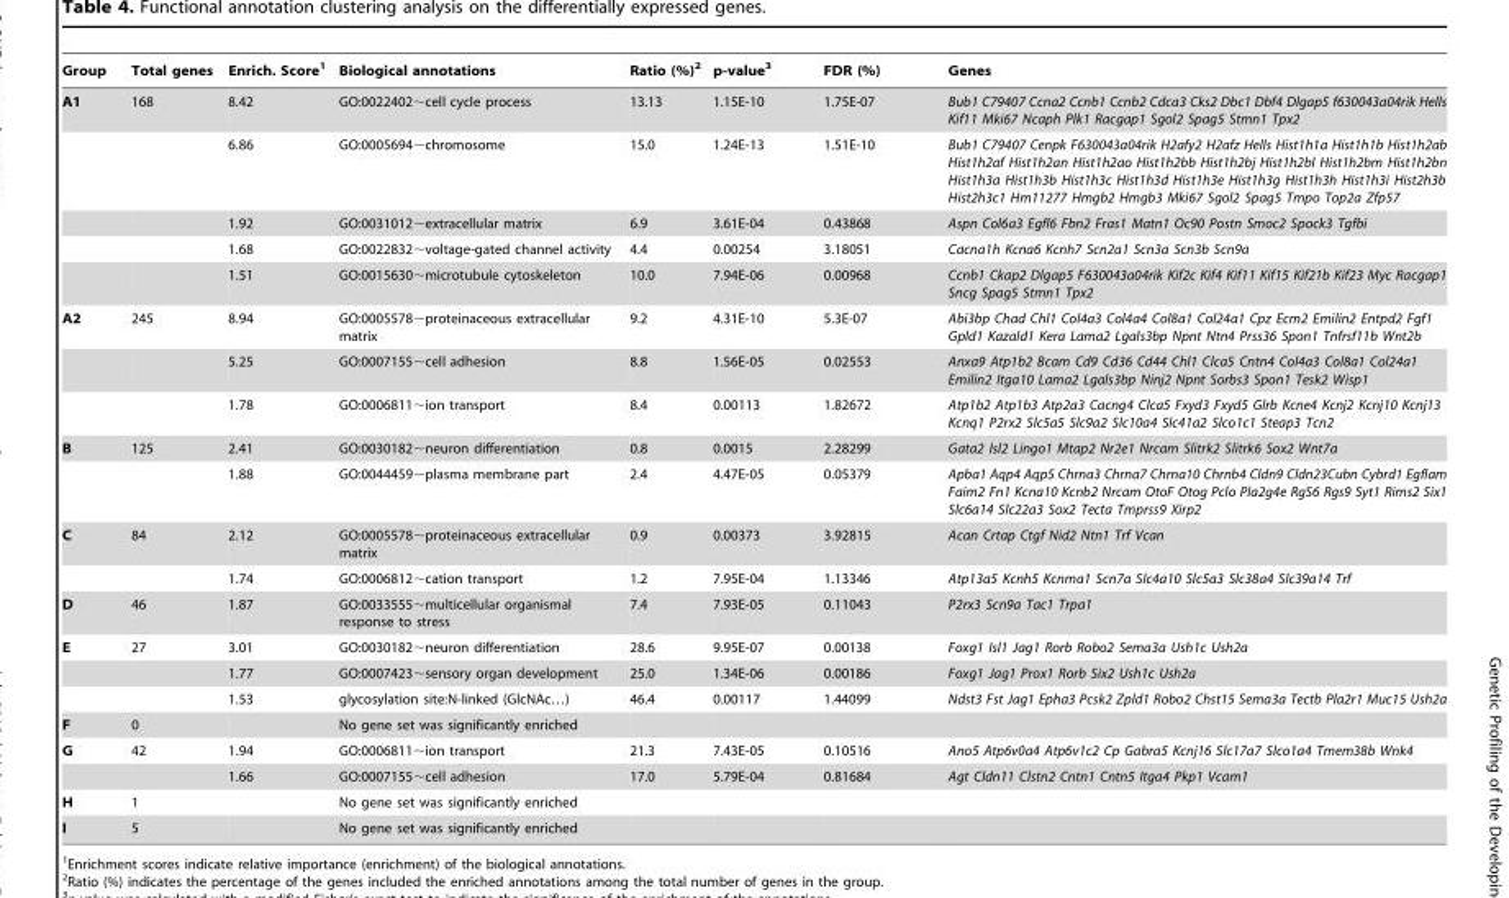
<table><thead><tr><td>Group</td><td>Total genes</td><td>Enrich. Score<sup>1</sup></td><td>Biological annotations</td><td>Ratio (%)<sup>2</sup></td><td>p-value<sup>3</sup></td><td>FDR (%)</td><td>Genes</td></tr></thead><tbody><tr><td rowspan="5">A1</td><td>168</td><td>8.42</td><td>GO:0022402∼cell cycle process</td><td>13.13</td><td>1.15E-10</td><td>1.75E-07</td><td>Bub1 C79407 Ccna2 Ccnb1 Ccnb2 Cdca3 Cks2 Dbc1 Dbf4 Dlgap5 f630043a04rik Hells Kif11 Mki67 Ncaph Plk1 Racgap1 Sgol2 Spag5 Stmn1 Tpx2</td></tr><tr><td></td><td>6.86</td><td>GO:0005694∼chromosome</td><td>15.0</td><td>1.24E-13</td><td>1.51E-10</td><td>Bub1 C79407 Cenpk F630043a04rik H2afy2 H2afz Hells Hist1h1a Hist1h1b Hist1h2ab Hist1h2af Hist1h2an Hist1h2ao Hist1h2bb Hist1h2bj Hist1h2bl Hist1h2bm Hist1h2bn Hist1h3a Hist1h3b Hist1h3c Hist1h3d Hist1h3e Hist1h3g Hist1h3h Hist1h3i Hist2h3b Hist2h3c1 Hm11277 Hmgb2 Hmgb3 Mki67 Sgol2 Spag5 Tmpo Top2a Zfp57</td></tr><tr><td></td><td>1.92</td><td>GO:0031012∼extracellular matrix</td><td>6.9</td><td>3.61E-04</td><td>0.43868</td><td>Aspn Col6a3 Egfl6 Fbn2 Fras1 Matn1 Oc90 Postn Smoc2 Spock3 Tgfbi</td></tr><tr><td></td><td>1.68</td><td>GO:0022832∼voltage-gated channel activity</td><td>4.4</td><td>0.00254</td><td>3.18051</td><td>Cacna1h Kcna6 Kcnh7 Scn2a1 Scn3a Scn3b Scn9a</td></tr><tr><td></td><td>1.51</td><td>GO:0015630∼microtubule cytoskeleton</td><td>10.0</td><td>7.94E-06</td><td>0.00968</td><td>Ccnb1 Ckap2 Dlgap5 F630043a04rik Kif2c Kif4 Kif11 Kif15 Kif21b Kif23 Myc Racgap1 Sncg Spag5 Stmn1 Tpx2</td></tr><tr><td rowspan="3">A2</td><td>245</td><td>8.94</td><td>GO:0005578∼proteinaceous extracellular matrix</td><td>9.2</td><td>4.31E-10</td><td>5.3E-07</td><td>Abi3bp Chad Chl1 Col4a3 Col4a4 Col8a1 Col24a1 Cpz Ecm2 Emilin2 Entpd2 Fgf1 Gpld1 Kazald1 Kera Lama2 Lgals3bp Npnt Ntn4 Prss36 Spon1 Tnfrsf11b Wnt2b</td></tr><tr><td></td><td>5.25</td><td>GO:0007155∼cell adhesion</td><td>8.8</td><td>1.56E-05</td><td>0.02553</td><td>Anxa9 Atp1b2 Bcam Cd9 Cd36 Cd44 Chl1 Clca5 Cntn4 Col4a3 Col8a1 Col24a1 Emilin2 Itga10 Lama2 Lgals3bp Ninj2 Npnt Sorbs3 Spon1 Tesk2 Wisp1</td></tr><tr><td></td><td>1.78</td><td>GO:0006811∼ion transport</td><td>8.4</td><td>0.00113</td><td>1.82672</td><td>Atp1b2 Atp1b3 Atp2a3 Cacng4 Clca5 Fxyd3 Fxyd5 Glrb Kcne4 Kcnj2 Kcnj10 Kcnj13 Kcnq1 P2rx2 Slc5a5 Slc9a2 Slc10a4 Slc41a2 Slco1c1 Steap3 Tcn2</td></tr><tr><td rowspan="2">B</td><td>125</td><td>2.41</td><td>GO:0030182∼neuron differentiation</td><td>0.8</td><td>0.0015</td><td>2.28299</td><td>Gata2 Isl2 Lingo1 Mtap2 Nr2e1 Nrcam Slitrk2 Slitrk6 Sox2 Wnt7a</td></tr><tr><td></td><td>1.88</td><td>GO:0044459∼plasma membrane part</td><td>2.4</td><td>4.47E-05</td><td>0.05379</td><td>Apba1 Aqp4 Aqp5 Chrna3 Chrna7 Chrna10 Chrnb4 Cldn9 Cldn23Cubn Cybrd1 Egflam Faim2 Fn1 Kcna10 Kcnb2 Nrcam OtoF Otog Pclo Pla2g4e RgS6 Rgs9 Syt1 Rims2 Six1 Slc6a14 Slc22a3 Sox2 Tecta Tmprss9 Xirp2</td></tr><tr><td rowspan="2">C</td><td>84</td><td>2.12</td><td>GO:0005578∼proteinaceous extracellular matrix</td><td>0.9</td><td>0.00373</td><td>3.92815</td><td>Acan Crtap Ctgf Nid2 Ntn1 Trf Vcan</td></tr><tr><td></td><td>1.74</td><td>GO:0006812∼cation transport</td><td>1.2</td><td>7.95E-04</td><td>1.13346</td><td>Atp13a5 Kcnh5 Kcnma1 Scn7a Slc4a10 Slc5a3 Slc38a4 Slc39a14 Trf</td></tr><tr><td>D</td><td>46</td><td>1.87</td><td>GO:0033555∼multicellular organismal response to stress</td><td>7.4</td><td>7.93E-05</td><td>0.11043</td><td>P2rx3 Scn9a Tac1 Trpa1</td></tr><tr><td rowspan="3">E</td><td>27</td><td>3.01</td><td>GO:0030182∼neuron differentiation</td><td>28.6</td><td>9.95E-07</td><td>0.00138</td><td>Foxg1 Isl1 Jag1 Rorb Robo2 Sema3a Ush1c Ush2a</td></tr><tr><td></td><td>1.77</td><td>GO:0007423∼sensory organ development</td><td>25.0</td><td>1.34E-06</td><td>0.00186</td><td>Foxg1 Jag1 Prox1 Rorb Six2 Ush1c Ush2a</td></tr><tr><td></td><td>1.53</td><td>glycosylation site:N-linked (GlcNAc…)</td><td>46.4</td><td>0.00117</td><td>1.44099</td><td>Ndst3 Fst Jag1 Epha3 Pcsk2 Zpld1 Robo2 Chst15 Sema3a Tectb Pla2r1 Muc15 Ush2a</td></tr><tr><td>F</td><td>0</td><td></td><td>No gene set was significantly enriched</td><td></td><td></td><td></td><td></td></tr><tr><td rowspan="2">G</td><td>42</td><td>1.94</td><td>GO:0006811∼ion transport</td><td>21.3</td><td>7.43E-05</td><td>0.10516</td><td>Ano5 Atp6v0a4 Atp6v1c2 Cp Gabra5 Kcnj16 Slc17a7 Slco1a4 Tmem38b Wnk4</td></tr><tr><td></td><td>1.66</td><td>GO:0007155∼cell adhesion</td><td>17.0</td><td>5.79E-04</td><td>0.81684</td><td>Agt Cldn11 Clstn2 Cntn1 Cntn5 Itga4 Pkp1 Vcam1</td></tr><tr><td>H</td><td>1</td><td></td><td>No gene set was significantly enriched</td><td></td><td></td><td></td><td></td></tr><tr><td>I</td><td>5</td><td></td><td>No gene set was significantly enriched</td><td></td><td></td><td></td><td></td></tr></tbody></table>